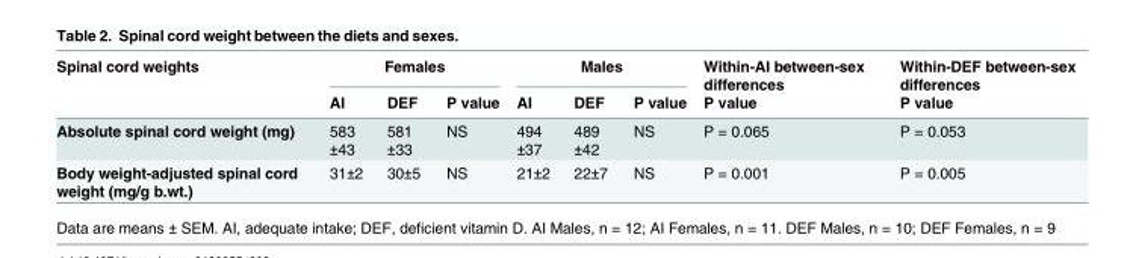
<table><thead><tr><td rowspan="2">Spinal cord weights</td><td colspan="3">Females</td><td colspan="3">Males</td><td rowspan="2">Within-AI between-sex differences P value</td><td rowspan="2">Within-DEF between-sex differences P value</td></tr><tr><td>AI</td><td>DEF</td><td>P value</td><td>AI</td><td>DEF</td><td>P value</td></tr></thead><tbody><tr><td>Absolute spinal cord weight (mg)</td><td>583 ±43</td><td>581 ±33</td><td>NS</td><td>494 ±37</td><td>489 ±42</td><td>NS</td><td>P = 0.065</td><td>P = 0.053</td></tr><tr><td>Body weight-adjusted spinal cord weight (mg/g b.wt.)</td><td>31±2</td><td>30±5</td><td>NS</td><td>21±2</td><td>22±7</td><td>NS</td><td>P = 0.001</td><td>P = 0.005</td></tr></tbody></table>